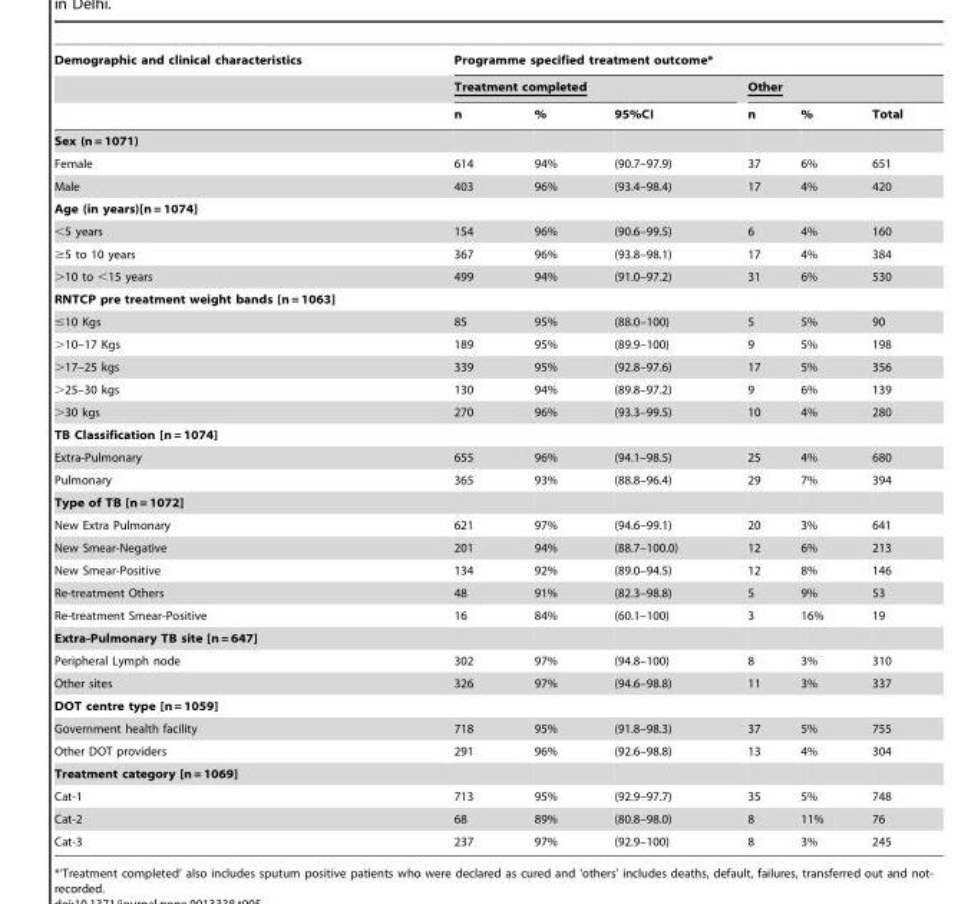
<table><thead><tr><td rowspan="3">Demographic and clinical characteristics</td><td colspan="6">Programme specified treatment outcome*</td></tr><tr><td colspan="3">Treatment completed</td><td colspan="3">Other</td></tr><tr><td>n</td><td>%</td><td>95%CI</td><td>n</td><td>%</td><td>Total</td></tr></thead><tbody><tr><td colspan="7">Sex (n = 1071)</td></tr><tr><td>Female</td><td>614</td><td>94%</td><td>(90.7–97.9)</td><td>37</td><td>6%</td><td>651</td></tr><tr><td>Male</td><td>403</td><td>96%</td><td>(93.4–98.4)</td><td>17</td><td>4%</td><td>420</td></tr><tr><td colspan="7">Age (in years)[n = 1074]</td></tr><tr><td>&lt;5 years</td><td>154</td><td>96%</td><td>(90.6–99.5)</td><td>6</td><td>4%</td><td>160</td></tr><tr><td>≥5 to 10 years</td><td>367</td><td>96%</td><td>(93.8–98.1)</td><td>17</td><td>4%</td><td>384</td></tr><tr><td>&gt;10 to &lt;15 years</td><td>499</td><td>94%</td><td>(91.0–97.2)</td><td>31</td><td>6%</td><td>530</td></tr><tr><td colspan="7">RNTCP pre treatment weight bands [n = 1063]</td></tr><tr><td>≤10 Kgs</td><td>85</td><td>95%</td><td>(88.0–100)</td><td>5</td><td>5%</td><td>90</td></tr><tr><td>&gt;10–17 Kgs</td><td>189</td><td>95%</td><td>(89.9–100)</td><td>9</td><td>5%</td><td>198</td></tr><tr><td>&gt;17–25 kgs</td><td>339</td><td>95%</td><td>(92.8–97.6)</td><td>17</td><td>5%</td><td>356</td></tr><tr><td>&gt;25–30 kgs</td><td>130</td><td>94%</td><td>(89.8–97.2)</td><td>9</td><td>6%</td><td>139</td></tr><tr><td>&gt;30 kgs</td><td>270</td><td>96%</td><td>(93.3–99.5)</td><td>10</td><td>4%</td><td>280</td></tr><tr><td colspan="7">TB Classification [n = 1074]</td></tr><tr><td>Extra-Pulmonary</td><td>655</td><td>96%</td><td>(94.1–98.5)</td><td>25</td><td>4%</td><td>680</td></tr><tr><td>Pulmonary</td><td>365</td><td>93%</td><td>(88.8–96.4)</td><td>29</td><td>7%</td><td>394</td></tr><tr><td colspan="7">Type of TB [n = 1072]</td></tr><tr><td>New Extra Pulmonary</td><td>621</td><td>97%</td><td>(94.6–99.1)</td><td>20</td><td>3%</td><td>641</td></tr><tr><td>New Smear-Negative</td><td>201</td><td>94%</td><td>(88.7–100.0)</td><td>12</td><td>6%</td><td>213</td></tr><tr><td>New Smear-Positive</td><td>134</td><td>92%</td><td>(89.0–94.5)</td><td>12</td><td>8%</td><td>146</td></tr><tr><td>Re-treatment Others</td><td>48</td><td>91%</td><td>(82.3–98.8)</td><td>5</td><td>9%</td><td>53</td></tr><tr><td>Re-treatment Smear-Positive</td><td>16</td><td>84%</td><td>(60.1–100)</td><td>3</td><td>16%</td><td>19</td></tr><tr><td colspan="7">Extra-Pulmonary TB site [n = 647]</td></tr><tr><td>Peripheral Lymph node</td><td>302</td><td>97%</td><td>(94.8–100)</td><td>8</td><td>3%</td><td>310</td></tr><tr><td>Other sites</td><td>326</td><td>97%</td><td>(94.6–98.8)</td><td>11</td><td>3%</td><td>337</td></tr><tr><td colspan="7">DOT centre type [n = 1059]</td></tr><tr><td>Government health facility</td><td>718</td><td>95%</td><td>(91.8–98.3)</td><td>37</td><td>5%</td><td>755</td></tr><tr><td>Other DOT providers</td><td>291</td><td>96%</td><td>(92.6–98.8)</td><td>13</td><td>4%</td><td>304</td></tr><tr><td colspan="7">Treatment category [n = 1069]</td></tr><tr><td>Cat-1</td><td>713</td><td>95%</td><td>(92.9–97.7)</td><td>35</td><td>5%</td><td>748</td></tr><tr><td>Cat-2</td><td>68</td><td>89%</td><td>(80.8–98.0)</td><td>8</td><td>11%</td><td>76</td></tr><tr><td>Cat-3</td><td>237</td><td>97%</td><td>(92.9–100)</td><td>8</td><td>3%</td><td>245</td></tr></tbody></table>